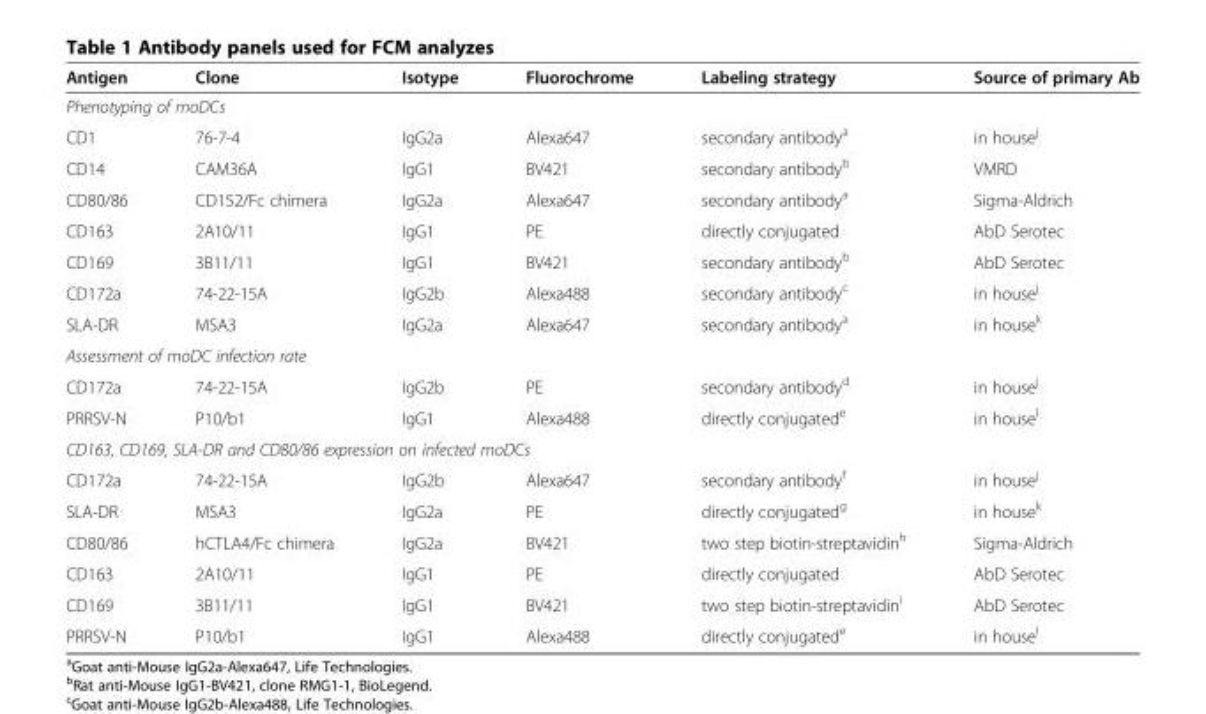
<table><thead><tr><td>Antigen</td><td>Clone</td><td>Isotype</td><td>Fluorochrome</td><td>Labeling strategy</td><td>Source of primary Ab</td></tr></thead><tbody><tr><td colspan="6">Phenotyping of moDCs</td></tr><tr><td>CD1</td><td>76-7-4</td><td>IgG2a</td><td>Alexa647</td><td>secondary antibody<sup>a</sup></td><td>in house<sup>j</sup></td></tr><tr><td>CD14</td><td>CAM36A</td><td>IgG1</td><td>BV421</td><td>secondary antibody<sup>b</sup></td><td>VMRD</td></tr><tr><td>CD80/86</td><td>CD152/Fc chimera</td><td>IgG2a</td><td>Alexa647</td><td>secondary antibody<sup>a</sup></td><td>Sigma-Aldrich</td></tr><tr><td>CD163</td><td>2A10/11</td><td>IgG1</td><td>PE</td><td>directly conjugated</td><td>AbD Serotec</td></tr><tr><td>CD169</td><td>3B11/11</td><td>IgG1</td><td>BV421</td><td>secondary antibody<sup>b</sup></td><td>AbD Serotec</td></tr><tr><td>CD172a</td><td>74-22-15A</td><td>IgG2b</td><td>Alexa488</td><td>secondary antibody<sup>c</sup></td><td>in house<sup>j</sup></td></tr><tr><td>SLA-DR</td><td>MSA3</td><td>IgG2a</td><td>Alexa647</td><td>secondary antibody<sup>a</sup></td><td>in house<sup>k</sup></td></tr><tr><td colspan="6">Assessment of moDC infection rate</td></tr><tr><td>CD172a</td><td>74-22-15A</td><td>IgG2b</td><td>PE</td><td>secondary antibody<sup>d</sup></td><td>in house<sup>j</sup></td></tr><tr><td>PRRSV-N</td><td>P10/b1</td><td>IgG1</td><td>Alexa488</td><td>directly conjugated<sup>e</sup></td><td>in house<sup>l</sup></td></tr><tr><td colspan="6">CD163, CD169, SLA-DR and CD80/86 expression on infected moDCs</td></tr><tr><td>CD172a</td><td>74-22-15A</td><td>IgG2b</td><td>Alexa647</td><td>secondary antibody<sup>f</sup></td><td>in house<sup>j</sup></td></tr><tr><td>SLA-DR</td><td>MSA3</td><td>IgG2a</td><td>PE</td><td>directly conjugated<sup>g</sup></td><td>in house<sup>k</sup></td></tr><tr><td>CD80/86</td><td>hCTLA4/Fc chimera</td><td>IgG2a</td><td>BV421</td><td>two step biotin-streptavidin<sup>h</sup></td><td>Sigma-Aldrich</td></tr><tr><td>CD163</td><td>2A10/11</td><td>IgG1</td><td>PE</td><td>directly conjugated</td><td>AbD Serotec</td></tr><tr><td>CD169</td><td>3B11/11</td><td>IgG1</td><td>BV421</td><td>two step biotin-streptavidin<sup>i</sup></td><td>AbD Serotec</td></tr><tr><td>PRRSV-N</td><td>P10/b1</td><td>IgG1</td><td>Alexa488</td><td>directly conjugated<sup>e</sup></td><td>in house<sup>l</sup></td></tr></tbody></table>